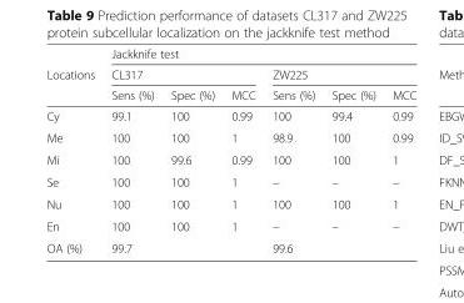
<table><thead><tr><td rowspan="3">Locations</td><td colspan="6">Jackknife test</td></tr><tr><td colspan="3">CL317</td><td colspan="3">ZW225</td></tr><tr><td>Sens (%)</td><td>Spec (%)</td><td>MCC</td><td>Sens (%)</td><td>Spec (%)</td><td>MCC</td></tr></thead><tbody><tr><td>Cy</td><td>99.1</td><td>100</td><td>0.99</td><td>100</td><td>99.4</td><td>0.99</td></tr><tr><td>Me</td><td>100</td><td>100</td><td>1</td><td>98.9</td><td>100</td><td>0.99</td></tr><tr><td>Mi</td><td>100</td><td>99.6</td><td>0.99</td><td>100</td><td>100</td><td>1</td></tr><tr><td>Se</td><td>100</td><td>100</td><td>1</td><td>–</td><td>–</td><td>–</td></tr><tr><td>Nu</td><td>100</td><td>100</td><td>1</td><td>100</td><td>100</td><td>1</td></tr><tr><td>En</td><td>100</td><td>100</td><td>1</td><td>–</td><td>–</td><td>–</td></tr><tr><td>OA (%)</td><td>99.7</td><td colspan="2"></td><td>99.6</td><td colspan="2"></td></tr></tbody></table>